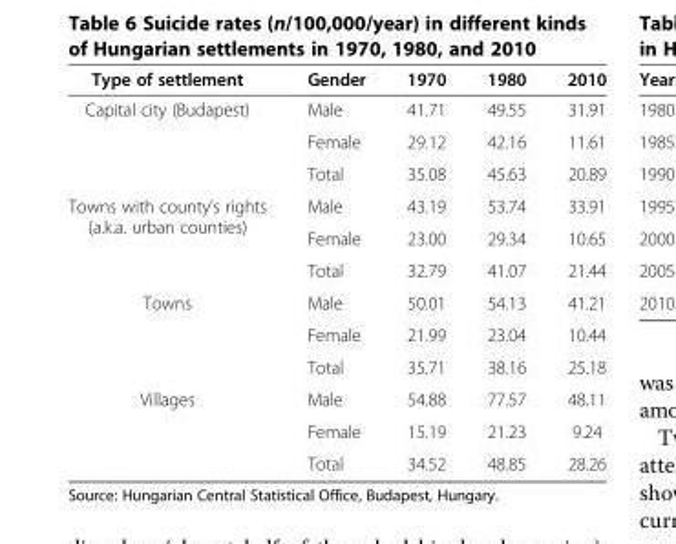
<table><thead><tr><td>Type of settlement</td><td>Gender</td><td>1970</td><td>1980</td><td>2010</td></tr></thead><tbody><tr><td rowspan="3">Capital city (Budapest)</td><td>Male</td><td>41.71</td><td>49.55</td><td>31.91</td></tr><tr><td>Female</td><td>29.12</td><td>42.16</td><td>11.61</td></tr><tr><td>Total</td><td>35.08</td><td>45.63</td><td>20.89</td></tr><tr><td rowspan="3">Towns with county’s rights (a.k.a. urban counties)</td><td>Male</td><td>43.19</td><td>53.74</td><td>33.91</td></tr><tr><td>Female</td><td>23.00</td><td>29.34</td><td>10.65</td></tr><tr><td>Total</td><td>32.79</td><td>41.07</td><td>21.44</td></tr><tr><td rowspan="3">Towns</td><td>Male</td><td>50.01</td><td>54.13</td><td>41.21</td></tr><tr><td>Female</td><td>21.99</td><td>23.04</td><td>10.44</td></tr><tr><td>Total</td><td>35.71</td><td>38.16</td><td>25.18</td></tr><tr><td rowspan="3">Villages</td><td>Male</td><td>54.88</td><td>77.57</td><td>48.11</td></tr><tr><td>Female</td><td>15.19</td><td>21.23</td><td>9.24</td></tr><tr><td>Total</td><td>34.52</td><td>48.85</td><td>28.26</td></tr></tbody></table>